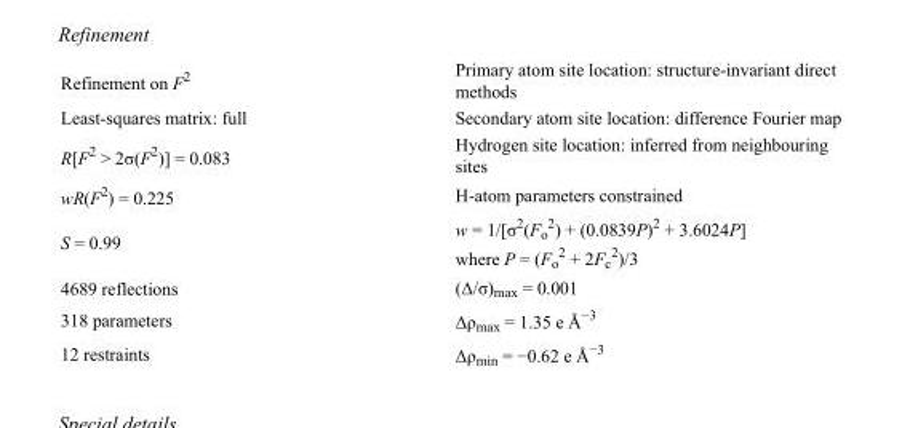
<table><tbody><tr><td>Refinement on F<sup>2</sup></td><td>Primary atom site location: structure-invariant direct methods</td></tr><tr><td>Least-squares matrix: full</td><td>Secondary atom site location: difference Fourier map</td></tr><tr><td>R[F<sup>2</sup> &gt; 2σ(F<sup>2</sup>)] = 0.083</td><td>Hydrogen site location: inferred from neighbouring sites</td></tr><tr><td>wR(F<sup>2</sup>) = 0.225</td><td>H-atom parameters constrained</td></tr><tr><td>S = 0.99</td><td>w = 1/[σ<sup>2</sup>(F<sub>o</sub> <sup>2</sup>) + (0.0839P)<sup>2</sup> + 3.6024P] where P = (F<sub>o</sub> <sup>2</sup> + 2F<sub>c</sub> <sup>2</sup>)/3</td></tr><tr><td>4689 reflections</td><td>(Δ/σ)<sub>max</sub> = 0.001</td></tr><tr><td>318 parameters</td><td>Δρ<sub>max</sub> = 1.35 e Å<sup>−3</sup></td></tr><tr><td>12 restraints</td><td>Δρ<sub>min</sub> = −0.62 e Å<sup>−3</sup></td></tr></tbody></table>